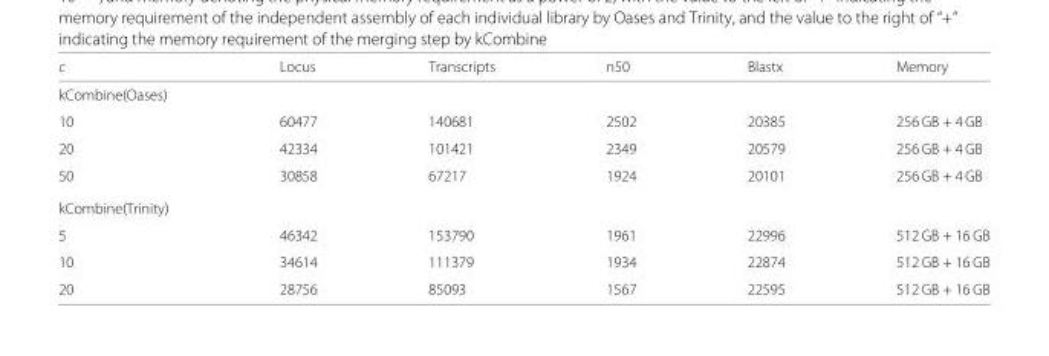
<table><thead><tr><td>c</td><td>Locus</td><td>Transcripts</td><td>n50</td><td>Blastx</td><td>Memory</td></tr></thead><tbody><tr><td colspan="6">kCombine(Oases)</td></tr><tr><td>10</td><td>60477</td><td>140681</td><td>2502</td><td>20385</td><td>256 GB + 4 GB</td></tr><tr><td>20</td><td>42334</td><td>101421</td><td>2349</td><td>20579</td><td>256 GB + 4 GB</td></tr><tr><td>50</td><td>30858</td><td>67217</td><td>1924</td><td>20101</td><td>256 GB + 4 GB</td></tr><tr><td colspan="6">kCombine(Trinity)</td></tr><tr><td>5</td><td>46342</td><td>153790</td><td>1961</td><td>22996</td><td>512 GB + 16 GB</td></tr><tr><td>10</td><td>34614</td><td>111379</td><td>1934</td><td>22874</td><td>512 GB + 16 GB</td></tr><tr><td>20</td><td>28756</td><td>85093</td><td>1567</td><td>22595</td><td>512 GB + 16 GB</td></tr></tbody></table>